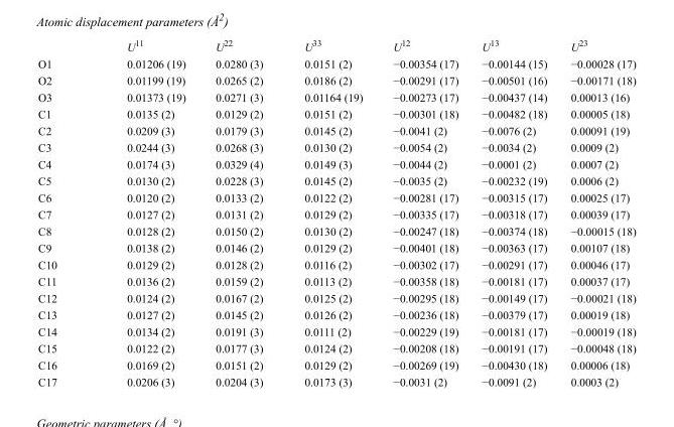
<table><thead><tr><td></td><td>U<sup>11</sup></td><td>U<sup>22</sup></td><td>U<sup>33</sup></td><td>U<sup>12</sup></td><td>U<sup>13</sup></td><td>U<sup>23</sup></td></tr></thead><tbody><tr><td>O1</td><td>0.01206 (19)</td><td>0.0280 (3)</td><td>0.0151 (2)</td><td>−0.00354 (17)</td><td>−0.00144 (15)</td><td>−0.00028 (17)</td></tr><tr><td>O2</td><td>0.01199 (19)</td><td>0.0265 (2)</td><td>0.0186 (2)</td><td>−0.00291 (17)</td><td>−0.00501 (16)</td><td>−0.00171 (18)</td></tr><tr><td>O3</td><td>0.01373 (19)</td><td>0.0271 (3)</td><td>0.01164 (19)</td><td>−0.00273 (17)</td><td>−0.00437 (14)</td><td>0.00013 (16)</td></tr><tr><td>C1</td><td>0.0135 (2)</td><td>0.0129 (2)</td><td>0.0151 (2)</td><td>−0.00301 (18)</td><td>−0.00482 (18)</td><td>0.00005 (18)</td></tr><tr><td>C2</td><td>0.0209 (3)</td><td>0.0179 (3)</td><td>0.0145 (2)</td><td>−0.0041 (2)</td><td>−0.0076 (2)</td><td>0.00091 (19)</td></tr><tr><td>C3</td><td>0.0244 (3)</td><td>0.0268 (3)</td><td>0.0130 (2)</td><td>−0.0054 (2)</td><td>−0.0034 (2)</td><td>0.0009 (2)</td></tr><tr><td>C4</td><td>0.0174 (3)</td><td>0.0329 (4)</td><td>0.0149 (3)</td><td>−0.0044 (2)</td><td>−0.0001 (2)</td><td>0.0007 (2)</td></tr><tr><td>C5</td><td>0.0130 (2)</td><td>0.0228 (3)</td><td>0.0145 (2)</td><td>−0.0035 (2)</td><td>−0.00232 (19)</td><td>0.0006 (2)</td></tr><tr><td>C6</td><td>0.0120 (2)</td><td>0.0133 (2)</td><td>0.0122 (2)</td><td>−0.00281 (17)</td><td>−0.00315 (17)</td><td>0.00025 (17)</td></tr><tr><td>C7</td><td>0.0127 (2)</td><td>0.0131 (2)</td><td>0.0129 (2)</td><td>−0.00335 (17)</td><td>−0.00318 (17)</td><td>0.00039 (17)</td></tr><tr><td>C8</td><td>0.0128 (2)</td><td>0.0150 (2)</td><td>0.0130 (2)</td><td>−0.00247 (18)</td><td>−0.00374 (18)</td><td>−0.00015 (18)</td></tr><tr><td>C9</td><td>0.0138 (2)</td><td>0.0146 (2)</td><td>0.0129 (2)</td><td>−0.00401 (18)</td><td>−0.00363 (17)</td><td>0.00107 (18)</td></tr><tr><td>C10</td><td>0.0129 (2)</td><td>0.0128 (2)</td><td>0.0116 (2)</td><td>−0.00302 (17)</td><td>−0.00291 (17)</td><td>0.00046 (17)</td></tr><tr><td>C11</td><td>0.0136 (2)</td><td>0.0159 (2)</td><td>0.0113 (2)</td><td>−0.00358 (18)</td><td>−0.00181 (17)</td><td>0.00037 (17)</td></tr><tr><td>C12</td><td>0.0124 (2)</td><td>0.0167 (2)</td><td>0.0125 (2)</td><td>−0.00295 (18)</td><td>−0.00149 (17)</td><td>−0.00021 (18)</td></tr><tr><td>C13</td><td>0.0127 (2)</td><td>0.0145 (2)</td><td>0.0126 (2)</td><td>−0.00236 (18)</td><td>−0.00379 (17)</td><td>0.00019 (18)</td></tr><tr><td>C14</td><td>0.0134 (2)</td><td>0.0191 (3)</td><td>0.0111 (2)</td><td>−0.00229 (19)</td><td>−0.00181 (17)</td><td>−0.00019 (18)</td></tr><tr><td>C15</td><td>0.0122 (2)</td><td>0.0177 (3)</td><td>0.0124 (2)</td><td>−0.00208 (18)</td><td>−0.00191 (17)</td><td>−0.00048 (18)</td></tr><tr><td>C16</td><td>0.0169 (2)</td><td>0.0151 (2)</td><td>0.0129 (2)</td><td>−0.00269 (19)</td><td>−0.00430 (18)</td><td>0.00006 (18)</td></tr><tr><td>C17</td><td>0.0206 (3)</td><td>0.0204 (3)</td><td>0.0173 (3)</td><td>−0.0031 (2)</td><td>−0.0091 (2)</td><td>0.0003 (2)</td></tr></tbody></table>